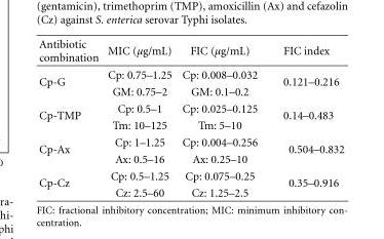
<table><thead><tr><td>Antibiotic combination</td><td>MIC (μg/mL)</td><td>FIC (μg/mL)</td><td>FIC index</td></tr></thead><tbody><tr><td rowspan="2">Cp-G</td><td>Cp: 0.75–1.25</td><td>Cp: 0.008–0.032</td><td rowspan="2">0.121–0.216</td></tr><tr><td>GM: 0.75–2</td><td>GM: 0.1–0.2</td></tr><tr><td rowspan="2">Cp-TMP</td><td>Cp: 0.5–1</td><td>Cp: 0.025–0.125</td><td rowspan="2">0.14–0.483</td></tr><tr><td>Tm: 10–125</td><td>Tm: 5–10</td></tr><tr><td rowspan="2">Cp-Ax</td><td>Cp: 1–1.25</td><td>Cp: 0.004–0.256</td><td rowspan="2">0.504–0.832</td></tr><tr><td>Ax: 0.5–16</td><td>Ax: 0.25–10</td></tr><tr><td rowspan="2">Cp-Cz</td><td>Cp: 0.5–1.25</td><td>Cp: 0.075–0.25</td><td rowspan="2">0.35–0.916</td></tr><tr><td>Cz: 2.5–60</td><td>Cz: 1.25–2.5</td></tr></tbody></table>